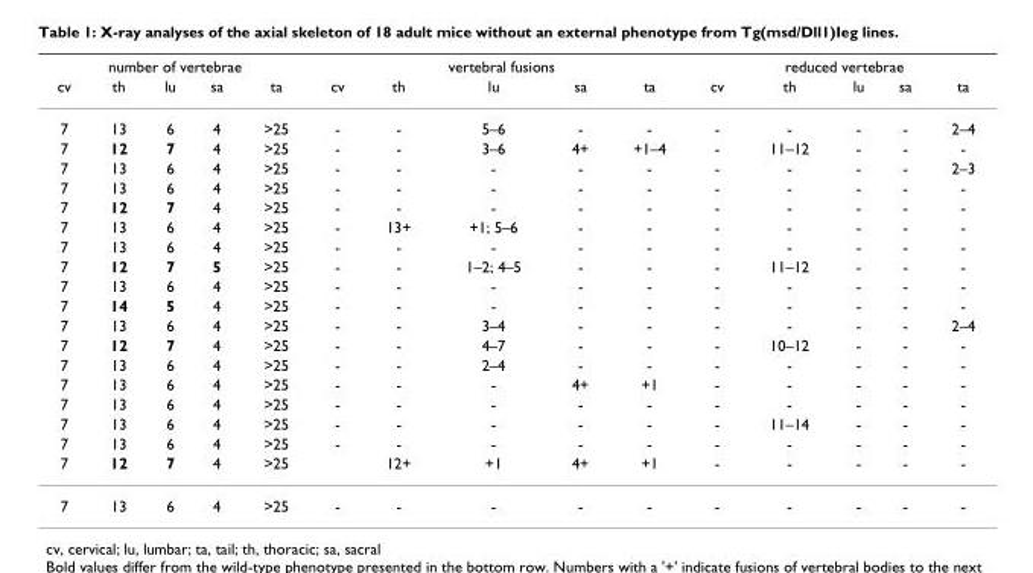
<table><thead><tr><td colspan="5">number of vertebrae</td><td colspan="5">vertebral fusions</td><td colspan="5">reduced vertebrae</td></tr><tr><td>cv</td><td>th</td><td>lu</td><td>sa</td><td>ta</td><td>cv</td><td>th</td><td>lu</td><td>sa</td><td>ta</td><td>cv</td><td>th</td><td>lu</td><td>sa</td><td>ta</td></tr></thead><tbody><tr><td>7</td><td>13</td><td>6</td><td>4</td><td>&gt;25</td><td>-</td><td>-</td><td>5–6</td><td>-</td><td>-</td><td>-</td><td>-</td><td>-</td><td>-</td><td>2–4</td></tr><tr><td>7</td><td>12</td><td>7</td><td>4</td><td>&gt;25</td><td>-</td><td>-</td><td>3–6</td><td>4+</td><td>+1–4</td><td>-</td><td>11–12</td><td>-</td><td>-</td><td>-</td></tr><tr><td>7</td><td>13</td><td>6</td><td>4</td><td>&gt;25</td><td>-</td><td>-</td><td>-</td><td>-</td><td>-</td><td>-</td><td>-</td><td>-</td><td>-</td><td>2–3</td></tr><tr><td>7</td><td>13</td><td>6</td><td>4</td><td>&gt;25</td><td>-</td><td>-</td><td>-</td><td>-</td><td>-</td><td>-</td><td>-</td><td>-</td><td>-</td><td>-</td></tr><tr><td>7</td><td>12</td><td>7</td><td>4</td><td>&gt;25</td><td>-</td><td>-</td><td>-</td><td>-</td><td>-</td><td>-</td><td>-</td><td>-</td><td>-</td><td>-</td></tr><tr><td>7</td><td>13</td><td>6</td><td>4</td><td>&gt;25</td><td>-</td><td>13+</td><td>+1; 5–6</td><td>-</td><td>-</td><td>-</td><td>-</td><td>-</td><td>-</td><td>-</td></tr><tr><td>7</td><td>13</td><td>6</td><td>4</td><td>&gt;25</td><td>-</td><td>-</td><td>-</td><td>-</td><td>-</td><td>-</td><td>-</td><td>-</td><td>-</td><td>-</td></tr><tr><td>7</td><td>12</td><td>7</td><td>5</td><td>&gt;25</td><td>-</td><td>-</td><td>1–2; 4–5</td><td>-</td><td>-</td><td>-</td><td>11–12</td><td>-</td><td>-</td><td>-</td></tr><tr><td>7</td><td>13</td><td>6</td><td>4</td><td>&gt;25</td><td>-</td><td>-</td><td>-</td><td>-</td><td>-</td><td>-</td><td>-</td><td>-</td><td>-</td><td>-</td></tr><tr><td>7</td><td>14</td><td>5</td><td>4</td><td>&gt;25</td><td>-</td><td>-</td><td>-</td><td>-</td><td>-</td><td>-</td><td>-</td><td>-</td><td>-</td><td>-</td></tr><tr><td>7</td><td>13</td><td>6</td><td>4</td><td>&gt;25</td><td>-</td><td>-</td><td>3–4</td><td>-</td><td>-</td><td>-</td><td>-</td><td>-</td><td>-</td><td>2–4</td></tr><tr><td>7</td><td>12</td><td>7</td><td>4</td><td>&gt;25</td><td>-</td><td>-</td><td>4–7</td><td>-</td><td>-</td><td>-</td><td>10–12</td><td>-</td><td>-</td><td>-</td></tr><tr><td>7</td><td>13</td><td>6</td><td>4</td><td>&gt;25</td><td>-</td><td>-</td><td>2–4</td><td>-</td><td>-</td><td>-</td><td>-</td><td>-</td><td>-</td><td>-</td></tr><tr><td>7</td><td>13</td><td>6</td><td>4</td><td>&gt;25</td><td>-</td><td>-</td><td>-</td><td>4+</td><td>+1</td><td>-</td><td>-</td><td>-</td><td>-</td><td>-</td></tr><tr><td>7</td><td>13</td><td>6</td><td>4</td><td>&gt;25</td><td>-</td><td>-</td><td>-</td><td>-</td><td>-</td><td>-</td><td>-</td><td>-</td><td>-</td><td>-</td></tr><tr><td>7</td><td>13</td><td>6</td><td>4</td><td>&gt;25</td><td>-</td><td>-</td><td>-</td><td>-</td><td>-</td><td>-</td><td>11–14</td><td>-</td><td>-</td><td>-</td></tr><tr><td>7</td><td>13</td><td>6</td><td>4</td><td>&gt;25</td><td>-</td><td>-</td><td>-</td><td>-</td><td>-</td><td>-</td><td>-</td><td>-</td><td>-</td><td>-</td></tr><tr><td>7</td><td>12</td><td>7</td><td>4</td><td>&gt;25</td><td></td><td>12+</td><td>+1</td><td>4+</td><td>+1</td><td>-</td><td>-</td><td>-</td><td>-</td><td>-</td></tr><tr><td>7</td><td>13</td><td>6</td><td>4</td><td>&gt;25</td><td>-</td><td>-</td><td>-</td><td>-</td><td>-</td><td>-</td><td>-</td><td>-</td><td>-</td><td>-</td></tr></tbody></table>